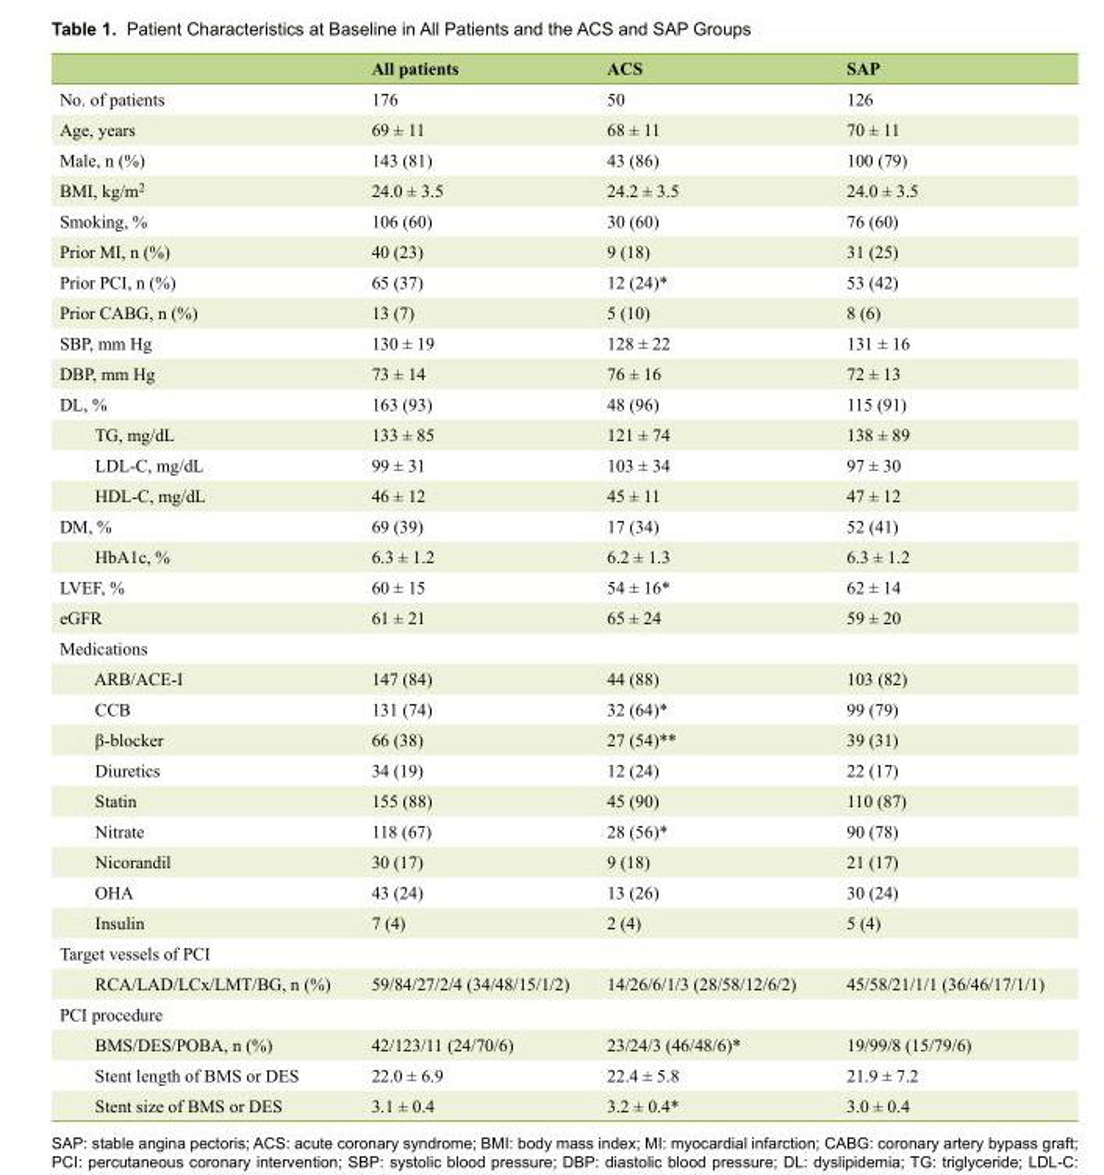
<table><thead><tr><td></td><td>All patients</td><td>ACS</td><td>SAP</td></tr></thead><tbody><tr><td>No. of patients</td><td>176</td><td>50</td><td>126</td></tr><tr><td>Age, years</td><td>69 ± 11</td><td>68 ± 11</td><td>70 ± 11</td></tr><tr><td>Male, n (%)</td><td>143 (81)</td><td>43 (86)</td><td>100 (79)</td></tr><tr><td>BMI, kg/m<sup>2</sup></td><td>24.0 ± 3.5</td><td>24.2 ± 3.5</td><td>24.0 ± 3.5</td></tr><tr><td>Smoking, %</td><td>106 (60)</td><td>30 (60)</td><td>76 (60)</td></tr><tr><td>Prior MI, n (%)</td><td>40 (23)</td><td>9 (18)</td><td>31 (25)</td></tr><tr><td>Prior PCI, n (%)</td><td>65 (37)</td><td>12 (24)*</td><td>53 (42)</td></tr><tr><td>Prior CABG, n (%)</td><td>13 (7)</td><td>5 (10)</td><td>8 (6)</td></tr><tr><td>SBP, mm Hg</td><td>130 ± 19</td><td>128 ± 22</td><td>131 ± 16</td></tr><tr><td>DBP, mm Hg</td><td>73 ± 14</td><td>76 ± 16</td><td>72 ± 13</td></tr><tr><td>DL, %</td><td>163 (93)</td><td>48 (96)</td><td>115 (91)</td></tr><tr><td>TG, mg/dL</td><td>133 ± 85</td><td>121 ± 74</td><td>138 ± 89</td></tr><tr><td>LDL-C, mg/dL</td><td>99 ± 31</td><td>103 ± 34</td><td>97 ± 30</td></tr><tr><td>HDL-C, mg/dL</td><td>46 ± 12</td><td>45 ± 11</td><td>47 ± 12</td></tr><tr><td>DM, %</td><td>69 (39)</td><td>17 (34)</td><td>52 (41)</td></tr><tr><td>HbA1c, %</td><td>6.3 ± 1.2</td><td>6.2 ± 1.3</td><td>6.3 ± 1.2</td></tr><tr><td>LVEF, %</td><td>60 ± 15</td><td>54 ± 16*</td><td>62 ± 14</td></tr><tr><td>eGFR</td><td>61 ± 21</td><td>65 ± 24</td><td>59 ± 20</td></tr><tr><td colspan="4">Medications</td></tr><tr><td>ARB/ACE-I</td><td>147 (84)</td><td>44 (88)</td><td>103 (82)</td></tr><tr><td>CCB</td><td>131 (74)</td><td>32 (64)*</td><td>99 (79)</td></tr><tr><td>β-blocker</td><td>66 (38)</td><td>27 (54)**</td><td>39 (31)</td></tr><tr><td>Diuretics</td><td>34 (19)</td><td>12 (24)</td><td>22 (17)</td></tr><tr><td>Statin</td><td>155 (88)</td><td>45 (90)</td><td>110 (87)</td></tr><tr><td>Nitrate</td><td>118 (67)</td><td>28 (56)*</td><td>90 (78)</td></tr><tr><td>Nicorandil</td><td>30 (17)</td><td>9 (18)</td><td>21 (17)</td></tr><tr><td>OHA</td><td>43 (24)</td><td>13 (26)</td><td>30 (24)</td></tr><tr><td>Insulin</td><td>7 (4)</td><td>2 (4)</td><td>5 (4)</td></tr><tr><td colspan="4">Target vessels of PCI</td></tr><tr><td>RCA/LAD/LCx/LMT/BG, n (%)</td><td>59/84/27/2/4 (34/48/15/1/2)</td><td>14/26/6/1/3 (28/58/12/6/2)</td><td>45/58/21/1/1 (36/46/17/1/1)</td></tr><tr><td colspan="4">PCI procedure</td></tr><tr><td>BMS/DES/POBA, n (%)</td><td>42/123/11 (24/70/6)</td><td>23/24/3 (46/48/6)*</td><td>19/99/8 (15/79/6)</td></tr><tr><td>Stent length of BMS or DES</td><td>22.0 ± 6.9</td><td>22.4 ± 5.8</td><td>21.9 ± 7.2</td></tr><tr><td>Stent size of BMS or DES</td><td>3.1 ± 0.4</td><td>3.2 ± 0.4*</td><td>3.0 ± 0.4</td></tr></tbody></table>